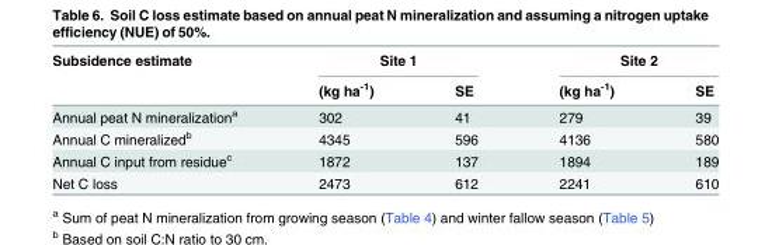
<table><thead><tr><td rowspan="2">Subsidence estimate</td><td colspan="2">Site 1</td><td colspan="2">Site 2</td></tr><tr><td>(kg ha<sup>-1</sup>)</td><td>SE</td><td>(kg ha<sup>-1</sup>)</td><td>SE</td></tr></thead><tbody><tr><td>Annual peat N mineralization<sup>a</sup></td><td>302</td><td>41</td><td>279</td><td>39</td></tr><tr><td>Annual C mineralized<sup>b</sup></td><td>4345</td><td>596</td><td>4136</td><td>580</td></tr><tr><td>Annual C input from residue<sup>c</sup></td><td>1872</td><td>137</td><td>1894</td><td>189</td></tr><tr><td>Net C loss</td><td>2473</td><td>612</td><td>2241</td><td>610</td></tr></tbody></table>